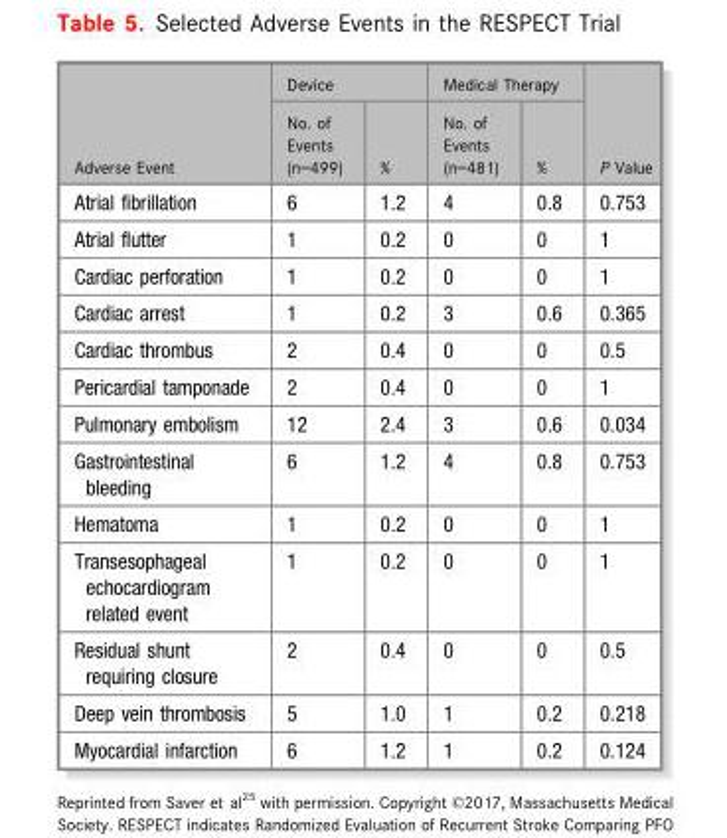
<table><thead><tr><td rowspan="2">Adverse Event</td><td colspan="2">Device</td><td colspan="2">Medical Therapy</td><td rowspan="2">P Value</td></tr><tr><td>No. of Events (n=499)</td><td>%</td><td>No. of Events (n=481)</td><td>%</td></tr></thead><tbody><tr><td>Atrial fibrillation</td><td>6</td><td>1.2</td><td>4</td><td>0.8</td><td>0.753</td></tr><tr><td>Atrial flutter</td><td>1</td><td>0.2</td><td>0</td><td>0</td><td>1</td></tr><tr><td>Cardiac perforation</td><td>1</td><td>0.2</td><td>0</td><td>0</td><td>1</td></tr><tr><td>Cardiac arrest</td><td>1</td><td>0.2</td><td>3</td><td>0.6</td><td>0.365</td></tr><tr><td>Cardiac thrombus</td><td>2</td><td>0.4</td><td>0</td><td>0</td><td>0.5</td></tr><tr><td>Pericardial tamponade</td><td>2</td><td>0.4</td><td>0</td><td>0</td><td>1</td></tr><tr><td>Pulmonary embolism</td><td>12</td><td>2.4</td><td>3</td><td>0.6</td><td>0.034</td></tr><tr><td>Gastrointestinal bleeding</td><td>6</td><td>1.2</td><td>4</td><td>0.8</td><td>0.753</td></tr><tr><td>Hematoma</td><td>1</td><td>0.2</td><td>0</td><td>0</td><td>1</td></tr><tr><td>Transesophageal echocardiogram related event</td><td>1</td><td>0.2</td><td>0</td><td>0</td><td>1</td></tr><tr><td>Residual shunt requiring closure</td><td>2</td><td>0.4</td><td>0</td><td>0</td><td>0.5</td></tr><tr><td>Deep vein thrombosis</td><td>5</td><td>1.0</td><td>1</td><td>0.2</td><td>0.218</td></tr><tr><td>Myocardial infarction</td><td>6</td><td>1.2</td><td>1</td><td>0.2</td><td>0.124</td></tr></tbody></table>